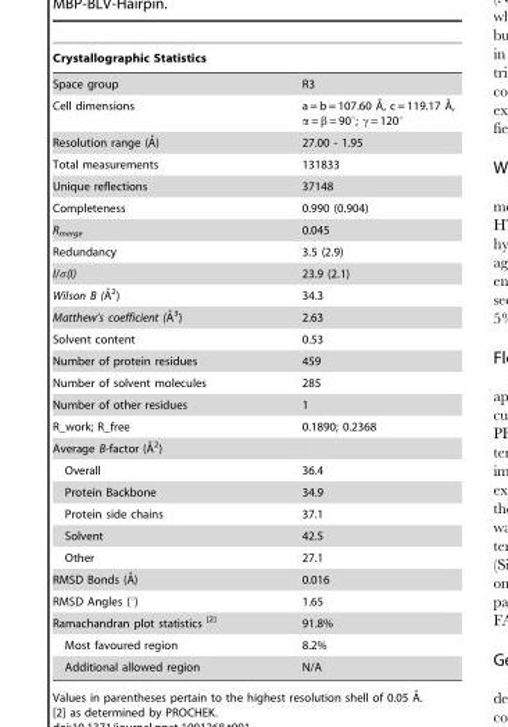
<table><thead><tr><td>Crystallographic Statistics</td><td></td></tr></thead><tbody><tr><td>Space group</td><td>R3</td></tr><tr><td>Cell dimensions</td><td>a = b = 107.60 A˚, c = 119.17 A˚, a = b = 90u; c = 120u</td></tr><tr><td>Resolution range (A˚)</td><td>27.00 - 1.95</td></tr><tr><td>Total measurements</td><td>131833</td></tr><tr><td>Unique reflections</td><td>37148</td></tr><tr><td>Completeness</td><td>0.990 (0.904)</td></tr><tr><td>R<sub>merge</sub></td><td>0.045</td></tr><tr><td>Redundancy</td><td>3.5 (2.9)</td></tr><tr><td>I/σ(I)</td><td>23.9 (2.1)</td></tr><tr><td>Wilson B (A˚2)</td><td>34.3</td></tr><tr><td>Matthew’s coefficient (A˚ 3)</td><td>2.63</td></tr><tr><td>Solvent content</td><td>0.53</td></tr><tr><td>Number of protein residues</td><td>459</td></tr><tr><td>Number of solvent molecules</td><td>285</td></tr><tr><td>Number of other residues</td><td>1</td></tr><tr><td>R_work; R_free</td><td>0.1890; 0.2368</td></tr><tr><td colspan="2">Average B-factor (A˚ 2)</td></tr><tr><td>Overall</td><td>36.4</td></tr><tr><td>Protein Backbone</td><td>34.9</td></tr><tr><td>Protein side chains</td><td>37.1</td></tr><tr><td>Solvent</td><td>42.5</td></tr><tr><td>Other</td><td>27.1</td></tr><tr><td>RMSD Bonds (A˚)</td><td>0.016</td></tr><tr><td>RMSD Angles (°)</td><td>1.65</td></tr><tr><td>Ramachandran plot statistics [2]</td><td>91.8%</td></tr><tr><td>Most favoured region</td><td>8.2%</td></tr><tr><td>Additional allowed region</td><td>N/A</td></tr></tbody></table>